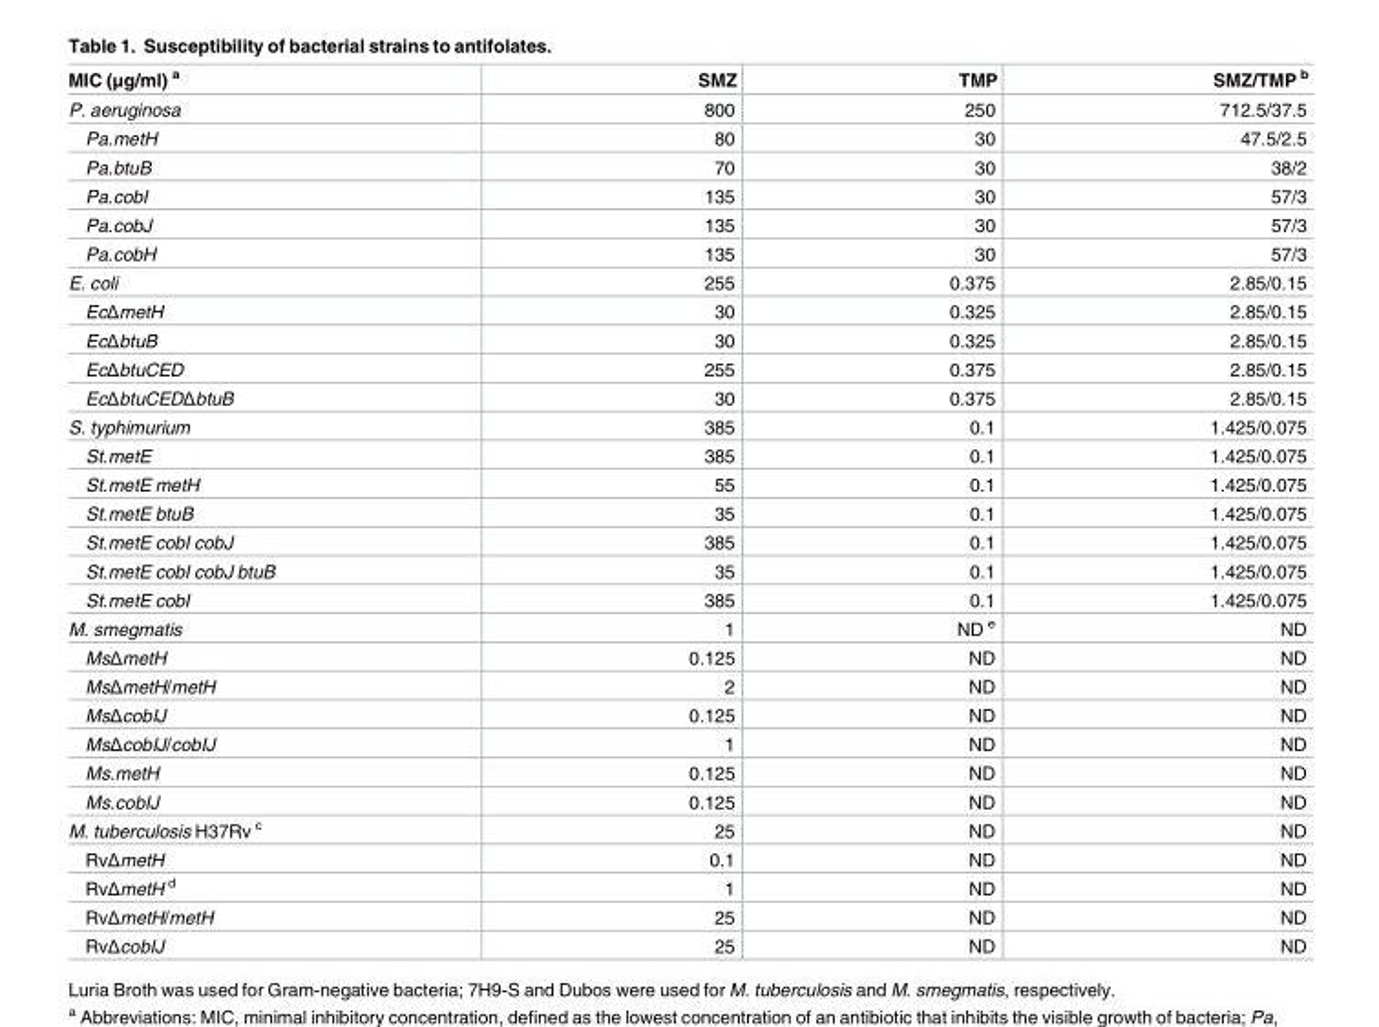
<table><thead><tr><td>MIC (μg/ml) <sup>a</sup></td><td>SMZ</td><td>TMP</td><td>SMZ/TMP <sup>b</sup></td></tr></thead><tbody><tr><td>P. aeruginosa</td><td>800</td><td>250</td><td>712.5/37.5</td></tr><tr><td>Pa.metH</td><td>80</td><td>30</td><td>47.5/2.5</td></tr><tr><td>Pa.btuB</td><td>70</td><td>30</td><td>38/2</td></tr><tr><td>Pa.cobI</td><td>135</td><td>30</td><td>57/3</td></tr><tr><td>Pa.cobJ</td><td>135</td><td>30</td><td>57/3</td></tr><tr><td>Pa.cobH</td><td>135</td><td>30</td><td>57/3</td></tr><tr><td>E. coli</td><td>255</td><td>0.375</td><td>2.85/0.15</td></tr><tr><td>EcΔmetH</td><td>30</td><td>0.325</td><td>2.85/0.15</td></tr><tr><td>EcΔbtuB</td><td>30</td><td>0.325</td><td>2.85/0.15</td></tr><tr><td>EcΔbtuCED</td><td>255</td><td>0.375</td><td>2.85/0.15</td></tr><tr><td>EcΔbtuCEDΔbtuB</td><td>30</td><td>0.375</td><td>2.85/0.15</td></tr><tr><td>S. typhimurium</td><td>385</td><td>0.1</td><td>1.425/0.075</td></tr><tr><td>St.metE</td><td>385</td><td>0.1</td><td>1.425/0.075</td></tr><tr><td>St.metE metH</td><td>55</td><td>0.1</td><td>1.425/0.075</td></tr><tr><td>St.metE btuB</td><td>35</td><td>0.1</td><td>1.425/0.075</td></tr><tr><td>St.metE cobI cobJ</td><td>385</td><td>0.1</td><td>1.425/0.075</td></tr><tr><td>St.metE cobI cobJ btuB</td><td>35</td><td>0.1</td><td>1.425/0.075</td></tr><tr><td>St.metE cobI</td><td>385</td><td>0.1</td><td>1.425/0.075</td></tr><tr><td>M. smegmatis</td><td>1</td><td>ND <sup>e</sup></td><td>ND</td></tr><tr><td>MsΔmetH</td><td>0.125</td><td>ND</td><td>ND</td></tr><tr><td>MsΔmetH/metH</td><td>2</td><td>ND</td><td>ND</td></tr><tr><td>MsΔcobIJ</td><td>0.125</td><td>ND</td><td>ND</td></tr><tr><td>MsΔcobIJ/cobIJ</td><td>1</td><td>ND</td><td>ND</td></tr><tr><td>Ms.metH</td><td>0.125</td><td>ND</td><td>ND</td></tr><tr><td>Ms.cobIJ</td><td>0.125</td><td>ND</td><td>ND</td></tr><tr><td>M. tuberculosis H37Rv <sup>c</sup></td><td>25</td><td>ND</td><td>ND</td></tr><tr><td>RvΔmetH</td><td>0.1</td><td>ND</td><td>ND</td></tr><tr><td>RvΔmetH <sup>d</sup></td><td>1</td><td>ND</td><td>ND</td></tr><tr><td>RvΔmetH/metH</td><td>25</td><td>ND</td><td>ND</td></tr><tr><td>RvΔcobIJ</td><td>25</td><td>ND</td><td>ND</td></tr></tbody></table>